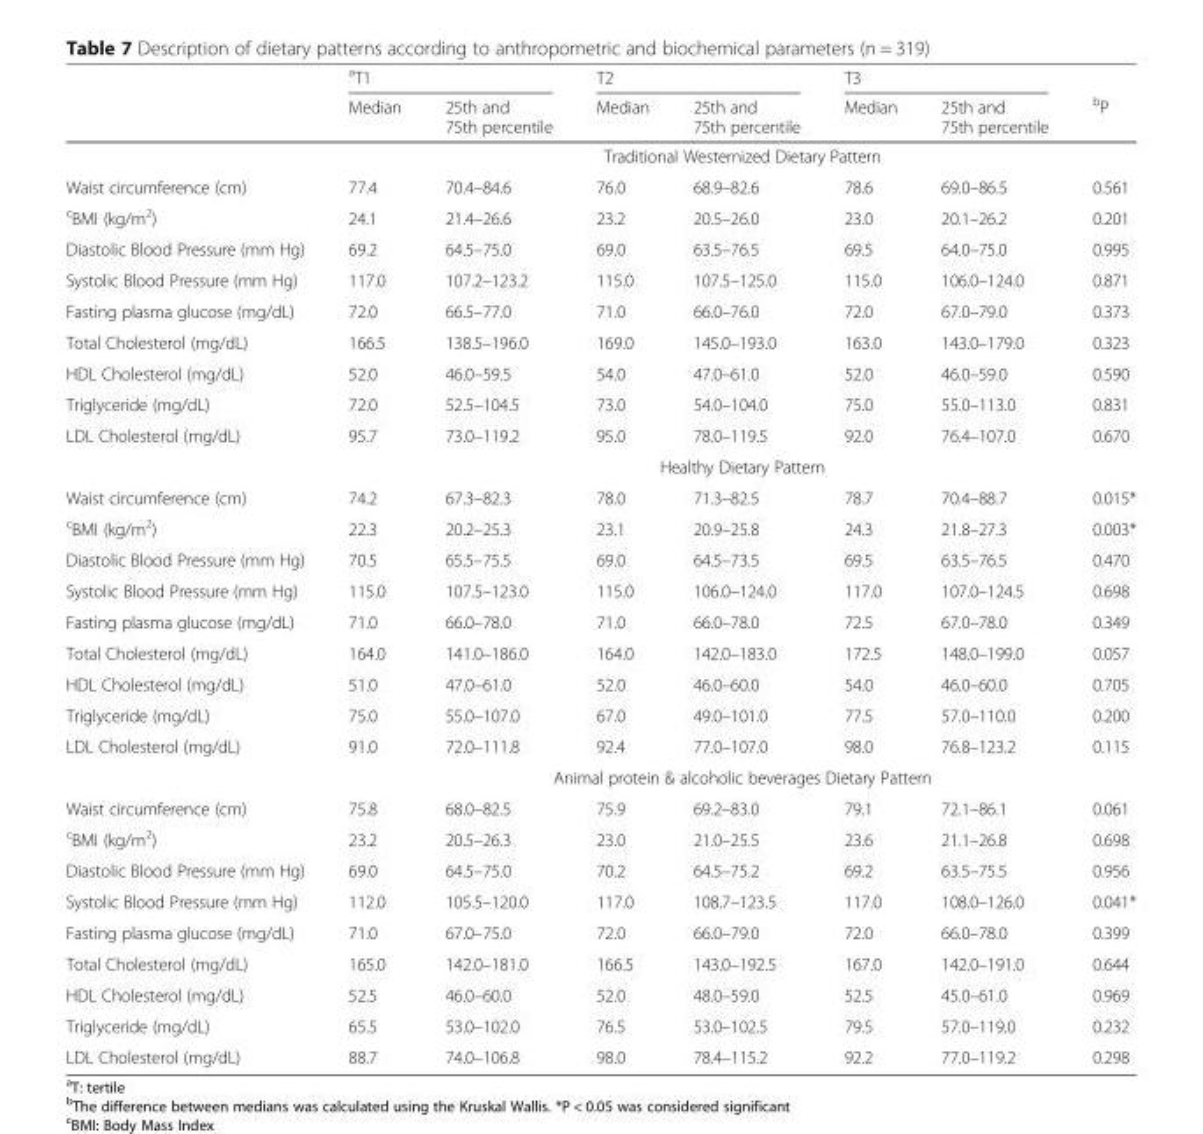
<table><thead><tr><td rowspan="2"></td><td colspan="2"><sup>a</sup>T1</td><td colspan="2">T2</td><td colspan="2">T3</td><td rowspan="2"><sup>b</sup>P</td></tr><tr><td>Median</td><td>25th and 75th percentile</td><td>Median</td><td>25th and 75th percentile</td><td>Median</td><td>25th and 75th percentile</td></tr></thead><tbody><tr><td></td><td colspan="7">Traditional Westernized Dietary Pattern</td></tr><tr><td>Waist circumference (cm)</td><td>77.4</td><td>70.4–84.6</td><td>76.0</td><td>68.9–82.6</td><td>78.6</td><td>69.0–86.5</td><td>0.561</td></tr><tr><td><sup>c</sup>BMI (kg/m<sup>2</sup>)</td><td>24.1</td><td>21.4–26.6</td><td>23.2</td><td>20.5–26.0</td><td>23.0</td><td>20.1–26.2</td><td>0.201</td></tr><tr><td>Diastolic Blood Pressure (mm Hg)</td><td>69.2</td><td>64.5–75.0</td><td>69.0</td><td>63.5–76.5</td><td>69.5</td><td>64.0–75.0</td><td>0.995</td></tr><tr><td>Systolic Blood Pressure (mm Hg)</td><td>117.0</td><td>107.2–123.2</td><td>115.0</td><td>107.5–125.0</td><td>115.0</td><td>106.0–124.0</td><td>0.871</td></tr><tr><td>Fasting plasma glucose (mg/dL)</td><td>72.0</td><td>66.5–77.0</td><td>71.0</td><td>66.0–76.0</td><td>72.0</td><td>67.0–79.0</td><td>0.373</td></tr><tr><td>Total Cholesterol (mg/dL)</td><td>166.5</td><td>138.5–196.0</td><td>169.0</td><td>145.0–193.0</td><td>163.0</td><td>143.0–179.0</td><td>0.323</td></tr><tr><td>HDL Cholesterol (mg/dL)</td><td>52.0</td><td>46.0–59.5</td><td>54.0</td><td>47.0–61.0</td><td>52.0</td><td>46.0–59.0</td><td>0.590</td></tr><tr><td>Triglyceride (mg/dL)</td><td>72.0</td><td>52.5–104.5</td><td>73.0</td><td>54.0–104.0</td><td>75.0</td><td>55.0–113.0</td><td>0.831</td></tr><tr><td rowspan="2">LDL Cholesterol (mg/dL)</td><td>95.7</td><td>73.0–119.2</td><td>95.0</td><td>78.0–119.5</td><td>92.0</td><td>76.4–107.0</td><td>0.670</td></tr><tr><td colspan="7">Healthy Dietary Pattern</td></tr><tr><td>Waist circumference (cm)</td><td>74.2</td><td>67.3–82.3</td><td>78.0</td><td>71.3–82.5</td><td>78.7</td><td>70.4–88.7</td><td>0.015*</td></tr><tr><td><sup>c</sup>BMI (kg/m<sup>2</sup>)</td><td>22.3</td><td>20.2–25.3</td><td>23.1</td><td>20.9–25.8</td><td>24.3</td><td>21.8–27.3</td><td>0.003*</td></tr><tr><td>Diastolic Blood Pressure (mm Hg)</td><td>70.5</td><td>65.5–75.5</td><td>69.0</td><td>64.5–73.5</td><td>69.5</td><td>63.5–76.5</td><td>0.470</td></tr><tr><td>Systolic Blood Pressure (mm Hg)</td><td>115.0</td><td>107.5–123.0</td><td>115.0</td><td>106.0–124.0</td><td>117.0</td><td>107.0–124.5</td><td>0.698</td></tr><tr><td>Fasting plasma glucose (mg/dL)</td><td>71.0</td><td>66.0–78.0</td><td>71.0</td><td>66.0–78.0</td><td>72.5</td><td>67.0–78.0</td><td>0.349</td></tr><tr><td>Total Cholesterol (mg/dL)</td><td>164.0</td><td>141.0–186.0</td><td>164.0</td><td>142.0–183.0</td><td>172.5</td><td>148.0–199.0</td><td>0.057</td></tr><tr><td>HDL Cholesterol (mg/dL)</td><td>51.0</td><td>47.0–61.0</td><td>52.0</td><td>46.0–60.0</td><td>54.0</td><td>46.0–60.0</td><td>0.705</td></tr><tr><td>Triglyceride (mg/dL)</td><td>75.0</td><td>55.0–107.0</td><td>67.0</td><td>49.0–101.0</td><td>77.5</td><td>57.0–110.0</td><td>0.200</td></tr><tr><td rowspan="2">LDL Cholesterol (mg/dL)</td><td>91.0</td><td>72.0–111.8</td><td>92.4</td><td>77.0–107.0</td><td>98.0</td><td>76.8–123.2</td><td>0.115</td></tr><tr><td colspan="7">Animal protein &amp; alcoholic beverages Dietary Pattern</td></tr><tr><td>Waist circumference (cm)</td><td>75.8</td><td>68.0–82.5</td><td>75.9</td><td>69.2–83.0</td><td>79.1</td><td>72.1–86.1</td><td>0.061</td></tr><tr><td><sup>c</sup>BMI (kg/m<sup>2</sup>)</td><td>23.2</td><td>20.5–26.3</td><td>23.0</td><td>21.0–25.5</td><td>23.6</td><td>21.1–26.8</td><td>0.698</td></tr><tr><td>Diastolic Blood Pressure (mm Hg)</td><td>69.0</td><td>64.5–75.0</td><td>70.2</td><td>64.5–75.2</td><td>69.2</td><td>63.5–75.5</td><td>0.956</td></tr><tr><td>Systolic Blood Pressure (mm Hg)</td><td>112.0</td><td>105.5–120.0</td><td>117.0</td><td>108.7–123.5</td><td>117.0</td><td>108.0–126.0</td><td>0.041*</td></tr><tr><td>Fasting plasma glucose (mg/dL)</td><td>71.0</td><td>67.0–75.0</td><td>72.0</td><td>66.0–79.0</td><td>72.0</td><td>66.0–78.0</td><td>0.399</td></tr><tr><td>Total Cholesterol (mg/dL)</td><td>165.0</td><td>142.0–181.0</td><td>166.5</td><td>143.0–192.5</td><td>167.0</td><td>142.0–191.0</td><td>0.644</td></tr><tr><td>HDL Cholesterol (mg/dL)</td><td>52.5</td><td>46.0–60.0</td><td>52.0</td><td>48.0–59.0</td><td>52.5</td><td>45.0–61.0</td><td>0.969</td></tr><tr><td>Triglyceride (mg/dL)</td><td>65.5</td><td>53.0–102.0</td><td>76.5</td><td>53.0–102.5</td><td>79.5</td><td>57.0–119.0</td><td>0.232</td></tr><tr><td>LDL Cholesterol (mg/dL)</td><td>88.7</td><td>74.0–106.8</td><td>98.0</td><td>78.4–115.2</td><td>92.2</td><td>77.0–119.2</td><td>0.298</td></tr></tbody></table>